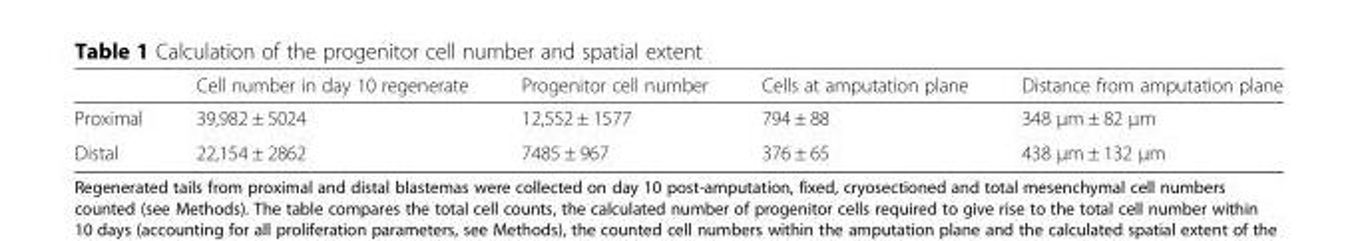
<table><thead><tr><td></td><td>Cell number in day 10 regenerate</td><td>Progenitor cell number</td><td>Cells at amputation plane</td><td>Distance from amputation plane</td></tr></thead><tbody><tr><td>Proximal</td><td>39,982 ± 5024</td><td>12,552 ± 1577</td><td>794 ± 88</td><td>348 μm ± 82 μm</td></tr><tr><td>Distal</td><td>22,154 ± 2862</td><td>7485 ± 967</td><td>376 ± 65</td><td>438 μm ± 132 μm</td></tr></tbody></table>